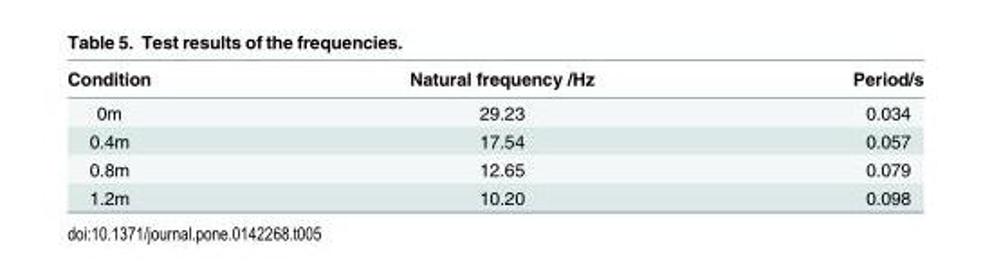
<table><thead><tr><td>Condition</td><td>Natural frequency /Hz</td><td>Period/s</td></tr></thead><tbody><tr><td>0m</td><td>29.23</td><td>0.034</td></tr><tr><td>0.4m</td><td>17.54</td><td>0.057</td></tr><tr><td>0.8m</td><td>12.65</td><td>0.079</td></tr><tr><td>1.2m</td><td>10.20</td><td>0.098</td></tr></tbody></table>